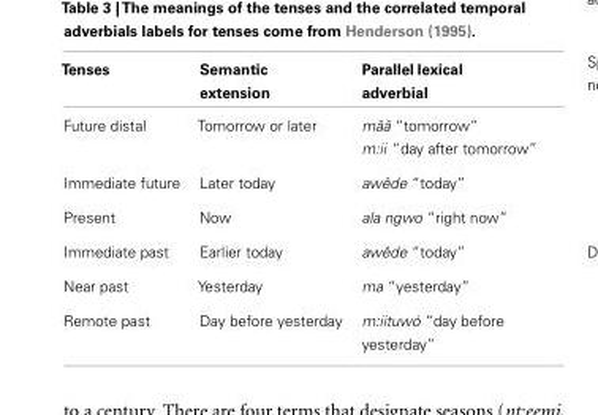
<table><thead><tr><td>Tenses</td><td>Semantic extension</td><td>Parallel lexical adverbial</td></tr></thead><tbody><tr><td rowspan="2">Future distal</td><td>Tomorrow or later</td><td>mââ “tomorrow”</td></tr><tr><td></td><td>m:ii “day after tomorrow”</td></tr><tr><td>Immediate future</td><td>Later today</td><td>awêde “today”</td></tr><tr><td>Present</td><td>Now</td><td>ala ngwo “right now”</td></tr><tr><td>Immediate past</td><td>Earlier today</td><td>awêde “today”</td></tr><tr><td>Near past</td><td>Yesterday</td><td>ma “yesterday”</td></tr><tr><td>Remote past</td><td>Day before yesterday</td><td>m:iituwó “day before yesterday”</td></tr></tbody></table>